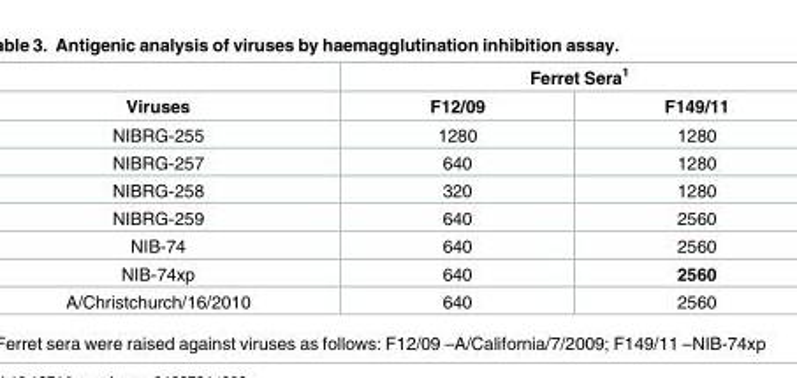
<table><thead><tr><td rowspan="2">Viruses</td><td colspan="2">Ferret Sera<sup>1</sup></td></tr><tr><td>F12/09</td><td>F149/11</td></tr></thead><tbody><tr><td>NIBRG-255</td><td>1280</td><td>1280</td></tr><tr><td>NIBRG-257</td><td>640</td><td>1280</td></tr><tr><td>NIBRG-258</td><td>320</td><td>1280</td></tr><tr><td>NIBRG-259</td><td>640</td><td>2560</td></tr><tr><td>NIB-74</td><td>640</td><td>2560</td></tr><tr><td>NIB-74xp</td><td>640</td><td>2560</td></tr><tr><td>A/Christchurch/16/2010</td><td>640</td><td>2560</td></tr></tbody></table>